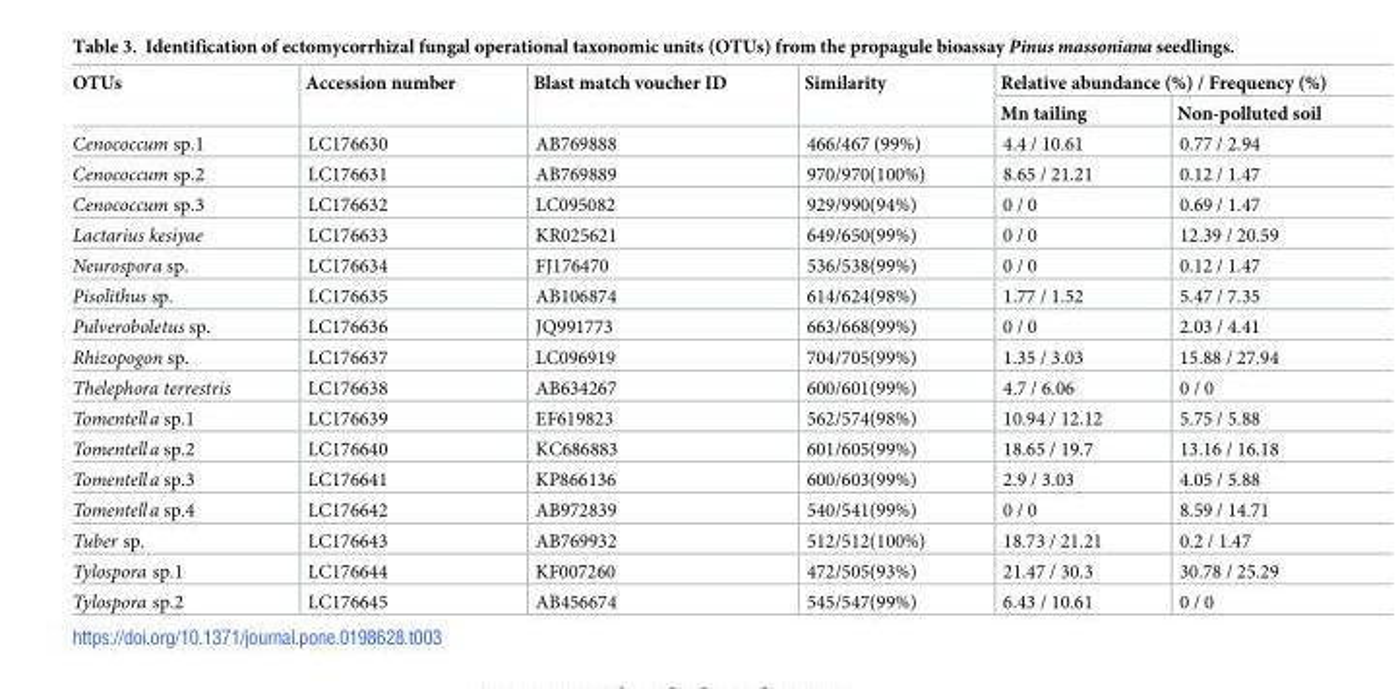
<table><thead><tr><td rowspan="2">OTUs</td><td rowspan="2">Accession number</td><td rowspan="2">Blast match voucher ID</td><td rowspan="2">Similarity</td><td colspan="2">Relative abundance (%) / Frequency (%)</td></tr><tr><td>Mn tailing</td><td>Non-polluted soil</td></tr></thead><tbody><tr><td>Cenococcum sp.1</td><td>LC176630</td><td>AB769888</td><td>466/467 (99%)</td><td>4.4 / 10.61</td><td>0.77 / 2.94</td></tr><tr><td>Cenococcum sp.2</td><td>LC176631</td><td>AB769889</td><td>970/970(100%)</td><td>8.65 / 21.21</td><td>0.12 / 1.47</td></tr><tr><td>Cenococcum sp.3</td><td>LC176632</td><td>LC095082</td><td>929/990(94%)</td><td>0 / 0</td><td>0.69 / 1.47</td></tr><tr><td>Lactarius kesiyae</td><td>LC176633</td><td>KR025621</td><td>649/650(99%)</td><td>0 / 0</td><td>12.39 / 20.59</td></tr><tr><td>Neurospora sp.</td><td>LC176634</td><td>FJ176470</td><td>536/538(99%)</td><td>0 / 0</td><td>0.12 / 1.47</td></tr><tr><td>Pisolithus sp.</td><td>LC176635</td><td>AB106874</td><td>614/624(98%)</td><td>1.77 / 1.52</td><td>5.47 / 7.35</td></tr><tr><td>Pulveroboletus sp.</td><td>LC176636</td><td>JQ991773</td><td>663/668(99%)</td><td>0 / 0</td><td>2.03 / 4.41</td></tr><tr><td>Rhizopogon sp.</td><td>LC176637</td><td>LC096919</td><td>704/705(99%)</td><td>1.35 / 3.03</td><td>15.88 / 27.94</td></tr><tr><td>Thelephora terrestris</td><td>LC176638</td><td>AB634267</td><td>600/601(99%)</td><td>4.7 / 6.06</td><td>0 / 0</td></tr><tr><td>Tomentella sp.1</td><td>LC176639</td><td>EF619823</td><td>562/574(98%)</td><td>10.94 / 12.12</td><td>5.75 / 5.88</td></tr><tr><td>Tomentella sp.2</td><td>LC176640</td><td>KC686883</td><td>601/605(99%)</td><td>18.65 / 19.7</td><td>13.16 / 16.18</td></tr><tr><td>Tomentella sp.3</td><td>LC176641</td><td>KP866136</td><td>600/603(99%)</td><td>2.9 / 3.03</td><td>4.05 / 5.88</td></tr><tr><td>Tomentella sp.4</td><td>LC176642</td><td>AB972839</td><td>540/541(99%)</td><td>0 / 0</td><td>8.59 / 14.71</td></tr><tr><td>Tuber sp.</td><td>LC176643</td><td>AB769932</td><td>512/512(100%)</td><td>18.73 / 21.21</td><td>0.2 / 1.47</td></tr><tr><td>Tylospora sp.1</td><td>LC176644</td><td>KF007260</td><td>472/505(93%)</td><td>21.47 / 30.3</td><td>30.78 / 25.29</td></tr><tr><td>Tylospora sp.2</td><td>LC176645</td><td>AB456674</td><td>545/547(99%)</td><td>6.43 / 10.61</td><td>0 / 0</td></tr></tbody></table>